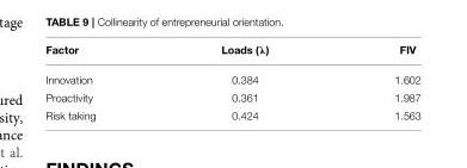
<table><thead><tr><td>Factor</td><td>Loads (λ)</td><td>FIV</td></tr></thead><tbody><tr><td>Innovation</td><td>0.384</td><td>1.602</td></tr><tr><td>Proactivity</td><td>0.361</td><td>1.987</td></tr><tr><td>Risk taking</td><td>0.424</td><td>1.563</td></tr></tbody></table>